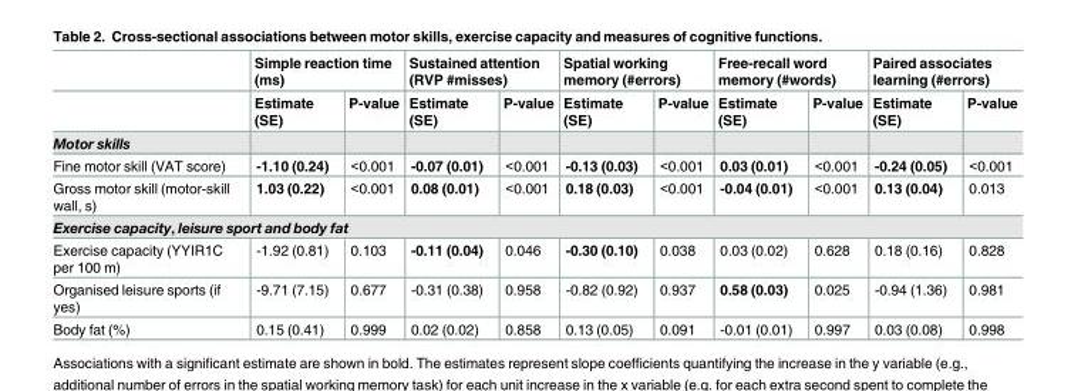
<table><thead><tr><td rowspan="2"></td><td colspan="2">Simple reaction time (ms)</td><td colspan="2">Sustained attention (RVP #misses)</td><td colspan="2">Spatial working memory (#errors)</td><td colspan="2">Free-recall word memory (#words)</td><td colspan="2">Paired associates learning (#errors)</td></tr><tr><td>Estimate (SE)</td><td>P-value</td><td>Estimate (SE)</td><td>P-value</td><td>Estimate (SE)</td><td>P-value</td><td>Estimate (SE)</td><td>P-value</td><td>Estimate (SE)</td><td>P-value</td></tr></thead><tbody><tr><td colspan="11">Motor skills</td></tr><tr><td>Fine motor skill (VAT score)</td><td>-1.10 (0.24)</td><td>&lt;0.001</td><td>-0.07 (0.01)</td><td>&lt;0.001</td><td>-0.13 (0.03)</td><td>&lt;0.001</td><td>0.03 (0.01)</td><td>&lt;0.001</td><td>-0.24 (0.05)</td><td>&lt;0.001</td></tr><tr><td>Gross motor skill (motor-skill wall, s)</td><td>1.03 (0.22)</td><td>&lt;0.001</td><td>0.08 (0.01)</td><td>&lt;0.001</td><td>0.18 (0.03)</td><td>&lt;0.001</td><td>-0.04 (0.01)</td><td>&lt;0.001</td><td>0.13 (0.04)</td><td>0.013</td></tr><tr><td colspan="11">Exercise capacity, leisure sport and body fat</td></tr><tr><td>Exercise capacity (YYIR1C per 100 m)</td><td>-1.92 (0.81)</td><td>0.103</td><td>-0.11 (0.04)</td><td>0.046</td><td>-0.30 (0.10)</td><td>0.038</td><td>0.03 (0.02)</td><td>0.628</td><td>0.18 (0.16)</td><td>0.828</td></tr><tr><td>Organised leisure sports (if yes)</td><td>-9.71 (7.15)</td><td>0.677</td><td>-0.31 (0.38)</td><td>0.958</td><td>-0.82 (0.92)</td><td>0.937</td><td>0.58 (0.03)</td><td>0.025</td><td>-0.94 (1.36)</td><td>0.981</td></tr><tr><td>Body fat (%)</td><td>0.15 (0.41)</td><td>0.999</td><td>0.02 (0.02)</td><td>0.858</td><td>0.13 (0.05)</td><td>0.091</td><td>-0.01 (0.01)</td><td>0.997</td><td>0.03 (0.08)</td><td>0.998</td></tr></tbody></table>